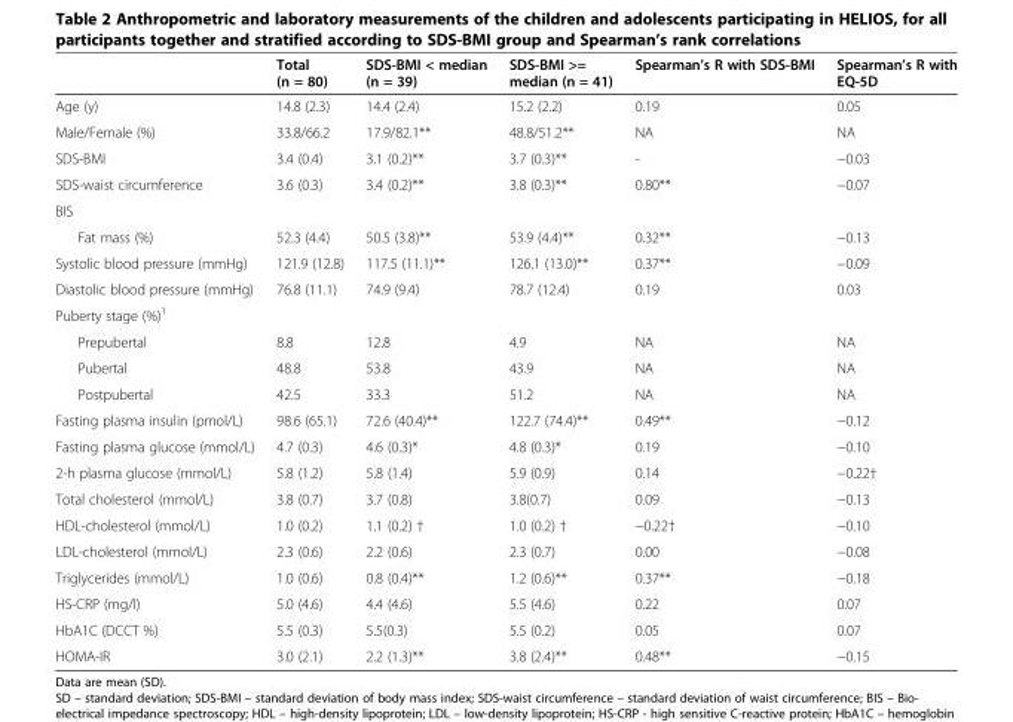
<table><thead><tr><td></td><td>Total (n = 80)</td><td>SDS-BMI &lt; median (n = 39)</td><td>SDS-BMI &gt;= median (n = 41)</td><td>Spearman’s R with SDS-BMI</td><td>Spearman’s R with EQ-5D</td></tr></thead><tbody><tr><td>Age (y)</td><td>14.8 (2.3)</td><td>14.4 (2.4)</td><td>15.2 (2.2)</td><td>0.19</td><td>0.05</td></tr><tr><td>Male/Female (%)</td><td>33.8/66.2</td><td>17.9/82.1**</td><td>48.8/51.2**</td><td>NA</td><td>NA</td></tr><tr><td>SDS-BMI</td><td>3.4 (0.4)</td><td>3.1 (0.2)**</td><td>3.7 (0.3)**</td><td>-</td><td>−0.03</td></tr><tr><td>SDS-waist circumference</td><td>3.6 (0.3)</td><td>3.4 (0.2)**</td><td>3.8 (0.3)**</td><td>0.80**</td><td>−0.07</td></tr><tr><td colspan="6">BIS</td></tr><tr><td>Fat mass (%)</td><td>52.3 (4.4)</td><td>50.5 (3.8)**</td><td>53.9 (4.4)**</td><td>0.32**</td><td>−0.13</td></tr><tr><td>Systolic blood pressure (mmHg)</td><td>121.9 (12.8)</td><td>117.5 (11.1)**</td><td>126.1 (13.0)**</td><td>0.37**</td><td>−0.09</td></tr><tr><td>Diastolic blood pressure (mmHg)</td><td>76.8 (11.1)</td><td>74.9 (9.4)</td><td>78.7 (12.4)</td><td>0.19</td><td>0.03</td></tr><tr><td colspan="6">Puberty stage (%)<sup>1</sup></td></tr><tr><td>Prepubertal</td><td>8.8</td><td>12.8</td><td>4.9</td><td>NA</td><td>NA</td></tr><tr><td>Pubertal</td><td>48.8</td><td>53.8</td><td>43.9</td><td>NA</td><td>NA</td></tr><tr><td>Postpubertal</td><td>42.5</td><td>33.3</td><td>51.2</td><td>NA</td><td>NA</td></tr><tr><td>Fasting plasma insulin (pmol/L)</td><td>98.6 (65.1)</td><td>72.6 (40.4)**</td><td>122.7 (74.4)**</td><td>0.49**</td><td>−0.12</td></tr><tr><td>Fasting plasma glucose (mmol/L)</td><td>4.7 (0.3)</td><td>4.6 (0.3)*</td><td>4.8 (0.3)*</td><td>0.19</td><td>−0.10</td></tr><tr><td>2-h plasma glucose (mmol/L)</td><td>5.8 (1.2)</td><td>5.8 (1.4)</td><td>5.9 (0.9)</td><td>0.14</td><td>−0.22†</td></tr><tr><td>Total cholesterol (mmol/L)</td><td>3.8 (0.7)</td><td>3.7 (0.8)</td><td>3.8(0.7)</td><td>0.09</td><td>−0.13</td></tr><tr><td>HDL-cholesterol (mmol/L)</td><td>1.0 (0.2)</td><td>1.1 (0.2) †</td><td>1.0 (0.2) †</td><td>−0.22†</td><td>−0.10</td></tr><tr><td>LDL-cholesterol (mmol/L)</td><td>2.3 (0.6)</td><td>2.2 (0.6)</td><td>2.3 (0.7)</td><td>0.00</td><td>−0.08</td></tr><tr><td>Triglycerides (mmol/L)</td><td>1.0 (0.6)</td><td>0.8 (0.4)**</td><td>1.2 (0.6)**</td><td>0.37**</td><td>−0.18</td></tr><tr><td>HS-CRP (mg/l)</td><td>5.0 (4.6)</td><td>4.4 (4.6)</td><td>5.5 (4.6)</td><td>0.22</td><td>0.07</td></tr><tr><td>HbA1C (DCCT %)</td><td>5.5 (0.3)</td><td>5.5(0.3)</td><td>5.5 (0.2)</td><td>0.05</td><td>0.07</td></tr><tr><td>HOMA-IR</td><td>3.0 (2.1)</td><td>2.2 (1.3)**</td><td>3.8 (2.4)**</td><td>0.48**</td><td>−0.15</td></tr></tbody></table>